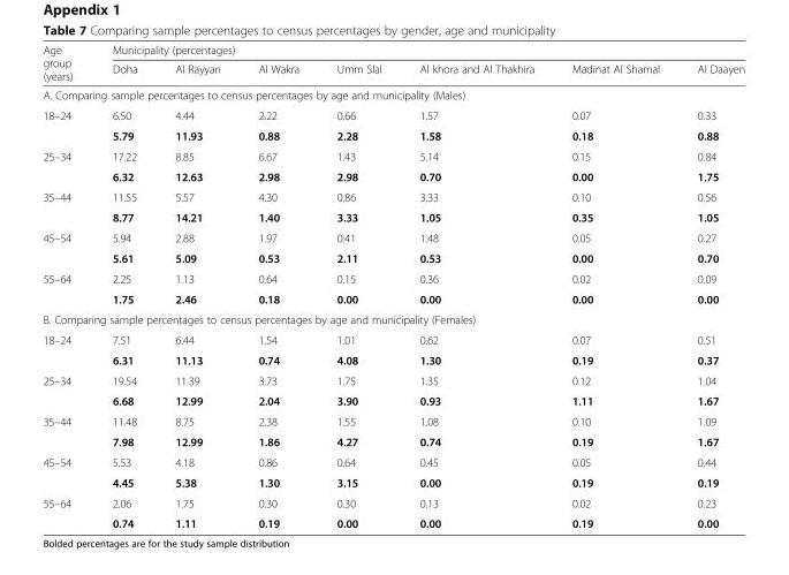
<table><thead><tr><td rowspan="2">Age group (years)</td><td colspan="7">Municipality (percentages)</td></tr><tr><td>Doha</td><td>Al Rayyan</td><td>Al Wakra</td><td>Umm Slal</td><td>Al khora and Al Thakhira</td><td>Madinat Al Shamal</td><td>Al Daayen</td></tr></thead><tbody><tr><td colspan="8">A. Comparing sample percentages to census percentages by age and municipality (Males)</td></tr><tr><td rowspan="2">18–24</td><td>6.50</td><td>4.44</td><td>2.22</td><td>0.66</td><td>1.57</td><td>0.07</td><td>0.33</td></tr><tr><td>5.79</td><td>11.93</td><td>0.88</td><td>2.28</td><td>1.58</td><td>0.18</td><td>0.88</td></tr><tr><td rowspan="2">25–34</td><td>17.22</td><td>8.85</td><td>6.67</td><td>1.43</td><td>5.14</td><td>0.15</td><td>0.84</td></tr><tr><td>6.32</td><td>12.63</td><td>2.98</td><td>2.98</td><td>0.70</td><td>0.00</td><td>1.75</td></tr><tr><td rowspan="2">35–44</td><td>11.55</td><td>5.57</td><td>4.30</td><td>0.86</td><td>3.33</td><td>0.10</td><td>0.56</td></tr><tr><td>8.77</td><td>14.21</td><td>1.40</td><td>3.33</td><td>1.05</td><td>0.35</td><td>1.05</td></tr><tr><td rowspan="2">45–54</td><td>5.94</td><td>2.88</td><td>1.97</td><td>0.41</td><td>1.48</td><td>0.05</td><td>0.27</td></tr><tr><td>5.61</td><td>5.09</td><td>0.53</td><td>2.11</td><td>0.53</td><td>0.00</td><td>0.70</td></tr><tr><td rowspan="2">55–64</td><td>2.25</td><td>1.13</td><td>0.64</td><td>0.15</td><td>0.36</td><td>0.02</td><td>0.09</td></tr><tr><td>1.75</td><td>2.46</td><td>0.18</td><td>0.00</td><td>0.00</td><td>0.00</td><td>0.00</td></tr><tr><td colspan="8">B. Comparing sample percentages to census percentages by age and municipality (Females)</td></tr><tr><td rowspan="2">18–24</td><td>7.51</td><td>6.44</td><td>1.54</td><td>1.01</td><td>0.62</td><td>0.07</td><td>0.51</td></tr><tr><td>6.31</td><td>11.13</td><td>0.74</td><td>4.08</td><td>1.30</td><td>0.19</td><td>0.37</td></tr><tr><td rowspan="2">25–34</td><td>19.54</td><td>11.39</td><td>3.73</td><td>1.75</td><td>1.35</td><td>0.12</td><td>1.04</td></tr><tr><td>6.68</td><td>12.99</td><td>2.04</td><td>3.90</td><td>0.93</td><td>1.11</td><td>1.67</td></tr><tr><td rowspan="2">35–44</td><td>11.48</td><td>8.75</td><td>2.38</td><td>1.55</td><td>1.08</td><td>0.10</td><td>1.09</td></tr><tr><td>7.98</td><td>12.99</td><td>1.86</td><td>4.27</td><td>0.74</td><td>0.19</td><td>1.67</td></tr><tr><td rowspan="2">45–54</td><td>5.53</td><td>4.18</td><td>0.86</td><td>0.64</td><td>0.45</td><td>0.05</td><td>0.44</td></tr><tr><td>4.45</td><td>5.38</td><td>1.30</td><td>3.15</td><td>0.00</td><td>0.19</td><td>0.19</td></tr><tr><td rowspan="2">55–64</td><td>2.06</td><td>1.75</td><td>0.30</td><td>0.30</td><td>0.13</td><td>0.02</td><td>0.23</td></tr><tr><td>0.74</td><td>1.11</td><td>0.19</td><td>0.00</td><td>0.00</td><td>0.19</td><td>0.00</td></tr></tbody></table>